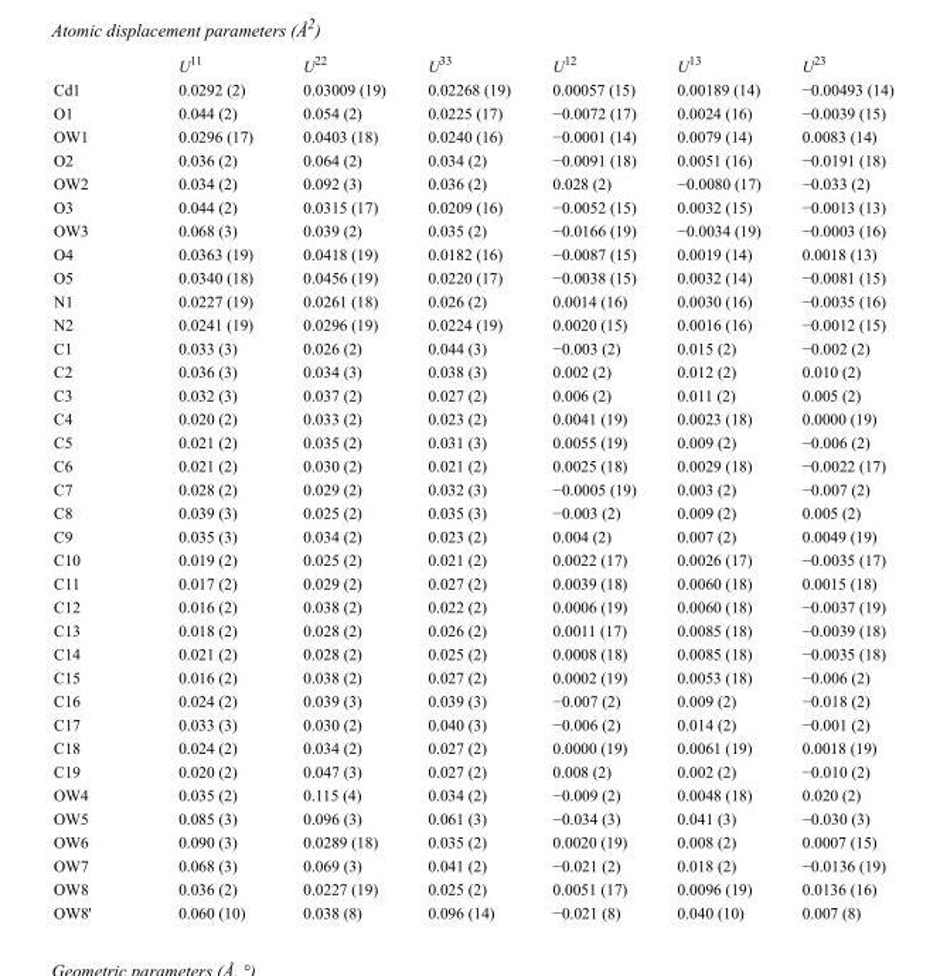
<table><thead><tr><td></td><td>U<sup>11</sup></td><td>U<sup>22</sup></td><td>U<sup>33</sup></td><td>U<sup>12</sup></td><td>U<sup>13</sup></td><td>U<sup>23</sup></td></tr></thead><tbody><tr><td>Cd1</td><td>0.0292 (2)</td><td>0.03009 (19)</td><td>0.02268 (19)</td><td>0.00057 (15)</td><td>0.00189 (14)</td><td>−0.00493 (14)</td></tr><tr><td>O1</td><td>0.044 (2)</td><td>0.054 (2)</td><td>0.0225 (17)</td><td>−0.0072 (17)</td><td>0.0024 (16)</td><td>−0.0039 (15)</td></tr><tr><td>OW1</td><td>0.0296 (17)</td><td>0.0403 (18)</td><td>0.0240 (16)</td><td>−0.0001 (14)</td><td>0.0079 (14)</td><td>0.0083 (14)</td></tr><tr><td>O2</td><td>0.036 (2)</td><td>0.064 (2)</td><td>0.034 (2)</td><td>−0.0091 (18)</td><td>0.0051 (16)</td><td>−0.0191 (18)</td></tr><tr><td>OW2</td><td>0.034 (2)</td><td>0.092 (3)</td><td>0.036 (2)</td><td>0.028 (2)</td><td>−0.0080 (17)</td><td>−0.033 (2)</td></tr><tr><td>O3</td><td>0.044 (2)</td><td>0.0315 (17)</td><td>0.0209 (16)</td><td>−0.0052 (15)</td><td>0.0032 (15)</td><td>−0.0013 (13)</td></tr><tr><td>OW3</td><td>0.068 (3)</td><td>0.039 (2)</td><td>0.035 (2)</td><td>−0.0166 (19)</td><td>−0.0034 (19)</td><td>−0.0003 (16)</td></tr><tr><td>O4</td><td>0.0363 (19)</td><td>0.0418 (19)</td><td>0.0182 (16)</td><td>−0.0087 (15)</td><td>0.0019 (14)</td><td>0.0018 (13)</td></tr><tr><td>O5</td><td>0.0340 (18)</td><td>0.0456 (19)</td><td>0.0220 (17)</td><td>−0.0038 (15)</td><td>0.0032 (14)</td><td>−0.0081 (15)</td></tr><tr><td>N1</td><td>0.0227 (19)</td><td>0.0261 (18)</td><td>0.026 (2)</td><td>0.0014 (16)</td><td>0.0030 (16)</td><td>−0.0035 (16)</td></tr><tr><td>N2</td><td>0.0241 (19)</td><td>0.0296 (19)</td><td>0.0224 (19)</td><td>0.0020 (15)</td><td>0.0016 (16)</td><td>−0.0012 (15)</td></tr><tr><td>C1</td><td>0.033 (3)</td><td>0.026 (2)</td><td>0.044 (3)</td><td>−0.003 (2)</td><td>0.015 (2)</td><td>−0.002 (2)</td></tr><tr><td>C2</td><td>0.036 (3)</td><td>0.034 (3)</td><td>0.038 (3)</td><td>0.002 (2)</td><td>0.012 (2)</td><td>0.010 (2)</td></tr><tr><td>C3</td><td>0.032 (3)</td><td>0.037 (2)</td><td>0.027 (2)</td><td>0.006 (2)</td><td>0.011 (2)</td><td>0.005 (2)</td></tr><tr><td>C4</td><td>0.020 (2)</td><td>0.033 (2)</td><td>0.023 (2)</td><td>0.0041 (19)</td><td>0.0023 (18)</td><td>0.0000 (19)</td></tr><tr><td>C5</td><td>0.021 (2)</td><td>0.035 (2)</td><td>0.031 (3)</td><td>0.0055 (19)</td><td>0.009 (2)</td><td>−0.006 (2)</td></tr><tr><td>C6</td><td>0.021 (2)</td><td>0.030 (2)</td><td>0.021 (2)</td><td>0.0025 (18)</td><td>0.0029 (18)</td><td>−0.0022 (17)</td></tr><tr><td>C7</td><td>0.028 (2)</td><td>0.029 (2)</td><td>0.032 (3)</td><td>−0.0005 (19)</td><td>0.003 (2)</td><td>−0.007 (2)</td></tr><tr><td>C8</td><td>0.039 (3)</td><td>0.025 (2)</td><td>0.035 (3)</td><td>−0.003 (2)</td><td>0.009 (2)</td><td>0.005 (2)</td></tr><tr><td>C9</td><td>0.035 (3)</td><td>0.034 (2)</td><td>0.023 (2)</td><td>0.004 (2)</td><td>0.007 (2)</td><td>0.0049 (19)</td></tr><tr><td>C10</td><td>0.019 (2)</td><td>0.025 (2)</td><td>0.021 (2)</td><td>0.0022 (17)</td><td>0.0026 (17)</td><td>−0.0035 (17)</td></tr><tr><td>C11</td><td>0.017 (2)</td><td>0.029 (2)</td><td>0.027 (2)</td><td>0.0039 (18)</td><td>0.0060 (18)</td><td>0.0015 (18)</td></tr><tr><td>C12</td><td>0.016 (2)</td><td>0.038 (2)</td><td>0.022 (2)</td><td>0.0006 (19)</td><td>0.0060 (18)</td><td>−0.0037 (19)</td></tr><tr><td>C13</td><td>0.018 (2)</td><td>0.028 (2)</td><td>0.026 (2)</td><td>0.0011 (17)</td><td>0.0085 (18)</td><td>−0.0039 (18)</td></tr><tr><td>C14</td><td>0.021 (2)</td><td>0.028 (2)</td><td>0.025 (2)</td><td>0.0008 (18)</td><td>0.0085 (18)</td><td>−0.0035 (18)</td></tr><tr><td>C15</td><td>0.016 (2)</td><td>0.038 (2)</td><td>0.027 (2)</td><td>0.0002 (19)</td><td>0.0053 (18)</td><td>−0.006 (2)</td></tr><tr><td>C16</td><td>0.024 (2)</td><td>0.039 (3)</td><td>0.039 (3)</td><td>−0.007 (2)</td><td>0.009 (2)</td><td>−0.018 (2)</td></tr><tr><td>C17</td><td>0.033 (3)</td><td>0.030 (2)</td><td>0.040 (3)</td><td>−0.006 (2)</td><td>0.014 (2)</td><td>−0.001 (2)</td></tr><tr><td>C18</td><td>0.024 (2)</td><td>0.034 (2)</td><td>0.027 (2)</td><td>0.0000 (19)</td><td>0.0061 (19)</td><td>0.0018 (19)</td></tr><tr><td>C19</td><td>0.020 (2)</td><td>0.047 (3)</td><td>0.027 (2)</td><td>0.008 (2)</td><td>0.002 (2)</td><td>−0.010 (2)</td></tr><tr><td>OW4</td><td>0.035 (2)</td><td>0.115 (4)</td><td>0.034 (2)</td><td>−0.009 (2)</td><td>0.0048 (18)</td><td>0.020 (2)</td></tr><tr><td>OW5</td><td>0.085 (3)</td><td>0.096 (3)</td><td>0.061 (3)</td><td>−0.034 (3)</td><td>0.041 (3)</td><td>−0.030 (3)</td></tr><tr><td>OW6</td><td>0.090 (3)</td><td>0.0289 (18)</td><td>0.035 (2)</td><td>0.0020 (19)</td><td>0.008 (2)</td><td>0.0007 (15)</td></tr><tr><td>OW7</td><td>0.068 (3)</td><td>0.069 (3)</td><td>0.041 (2)</td><td>−0.021 (2)</td><td>0.018 (2)</td><td>−0.0136 (19)</td></tr><tr><td>OW8</td><td>0.036 (2)</td><td>0.0227 (19)</td><td>0.025 (2)</td><td>0.0051 (17)</td><td>0.0096 (19)</td><td>0.0136 (16)</td></tr><tr><td>OW8&#x27;</td><td>0.060 (10)</td><td>0.038 (8)</td><td>0.096 (14)</td><td>−0.021 (8)</td><td>0.040 (10)</td><td>0.007 (8)</td></tr></tbody></table>